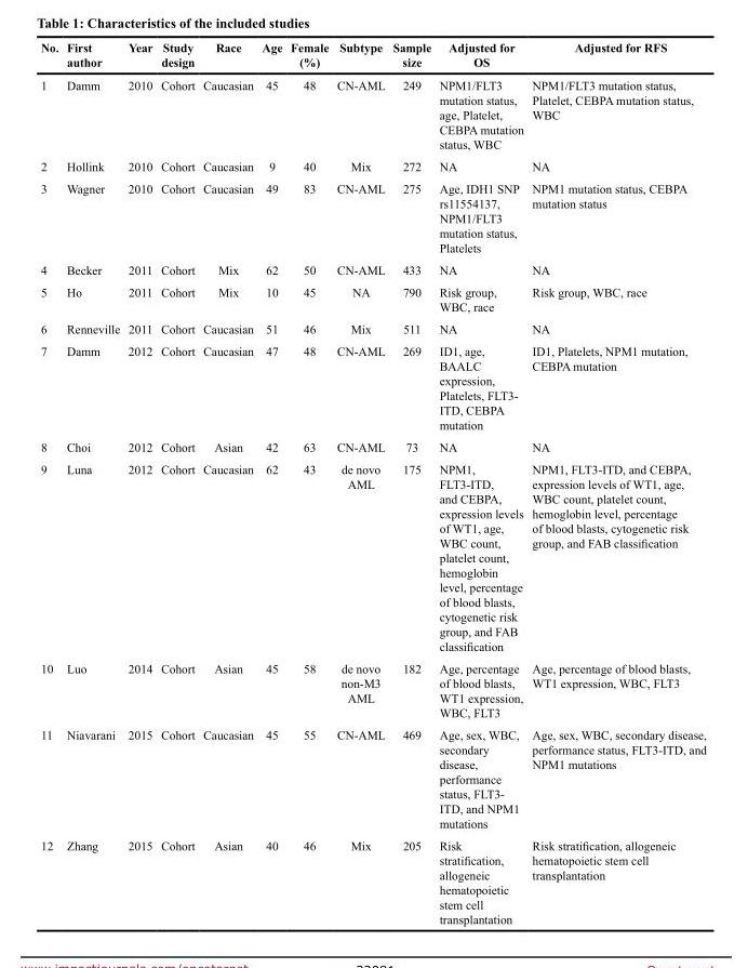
<table><thead><tr><td>No.</td><td>First author</td><td>Year</td><td>Study design</td><td>Race</td><td>Age</td><td>Female (%)</td><td>Subtype</td><td>Sample size</td><td>Adjusted for OS</td><td>Adjusted for RFS</td></tr></thead><tbody><tr><td>1</td><td>Damm</td><td>2010</td><td>Cohort</td><td>Caucasian</td><td>45</td><td>48</td><td>CN-AML</td><td>249</td><td>NPM1/FLT3 mutation status, age, Platelet, CEBPA mutation status, WBC</td><td>NPM1/FLT3 mutation status, Platelet, CEBPA mutation status, WBC</td></tr><tr><td>2</td><td>Hollink</td><td>2010</td><td>Cohort</td><td>Caucasian</td><td>9</td><td>40</td><td>Mix</td><td>272</td><td>NA</td><td>NA</td></tr><tr><td>3</td><td>Wagner</td><td>2010</td><td>Cohort</td><td>Caucasian</td><td>49</td><td>83</td><td>CN-AML</td><td>275</td><td>Age, IDH1 SNP rs11554137, NPM1/FLT3 mutation status, Platelets</td><td>NPM1 mutation status, CEBPA mutation status</td></tr><tr><td>4</td><td>Becker</td><td>2011</td><td>Cohort</td><td>Mix</td><td>62</td><td>50</td><td>CN-AML</td><td>433</td><td>NA</td><td>NA</td></tr><tr><td>5</td><td>Ho</td><td>2011</td><td>Cohort</td><td>Mix</td><td>10</td><td>45</td><td>NA</td><td>790</td><td>Risk group, WBC, race</td><td>Risk group, WBC, race</td></tr><tr><td>6</td><td>Renneville</td><td>2011</td><td>Cohort</td><td>Caucasian</td><td>51</td><td>46</td><td>Mix</td><td>511</td><td>NA</td><td>NA</td></tr><tr><td>7</td><td>Damm</td><td>2012</td><td>Cohort</td><td>Caucasian</td><td>47</td><td>48</td><td>CN-AML</td><td>269</td><td>ID1, age, BAALC expression, Platelets, FLT3- ITD, CEBPA mutation</td><td>ID1, Platelets, NPM1 mutation, CEBPA mutation</td></tr><tr><td>8</td><td>Choi</td><td>2012</td><td>Cohort</td><td>Asian</td><td>42</td><td>63</td><td>CN-AML</td><td>73</td><td>NA</td><td>NA</td></tr><tr><td>9</td><td>Luna</td><td>2012</td><td>Cohort</td><td>Caucasian</td><td>62</td><td>43</td><td>de novo AML</td><td>175</td><td>NPM1, FLT3-ITD, and CEBPA, expression levels of WT1, age, WBC count, platelet count, hemoglobin level, percentage of blood blasts, cytogenetic risk group, and FAB classification</td><td>NPM1, FLT3-ITD, and CEBPA, expression levels of WT1, age, WBC count, platelet count, hemoglobin level, percentage of blood blasts, cytogenetic risk group, and FAB classification</td></tr><tr><td>10</td><td>Luo</td><td>2014</td><td>Cohort</td><td>Asian</td><td>45</td><td>58</td><td>de novo non-M3 AML</td><td>182</td><td>Age, percentage of blood blasts, WT1 expression, WBC, FLT3</td><td>Age, percentage of blood blasts, WT1 expression, WBC, FLT3</td></tr><tr><td>11</td><td>Niavarani</td><td>2015</td><td>Cohort</td><td>Caucasian</td><td>45</td><td>55</td><td>CN-AML</td><td>469</td><td>Age, sex, WBC, secondary disease, performance status, FLT3- ITD, and NPM1 mutations</td><td>Age, sex, WBC, secondary disease, performance status, FLT3-ITD, and NPM1 mutations</td></tr><tr><td>12</td><td>Zhang</td><td>2015</td><td>Cohort</td><td>Asian</td><td>40</td><td>46</td><td>Mix</td><td>205</td><td>Risk stratification, allogeneic hematopoietic stem cell transplantation</td><td>Risk stratification, allogeneic hematopoietic stem cell transplantation</td></tr></tbody></table>